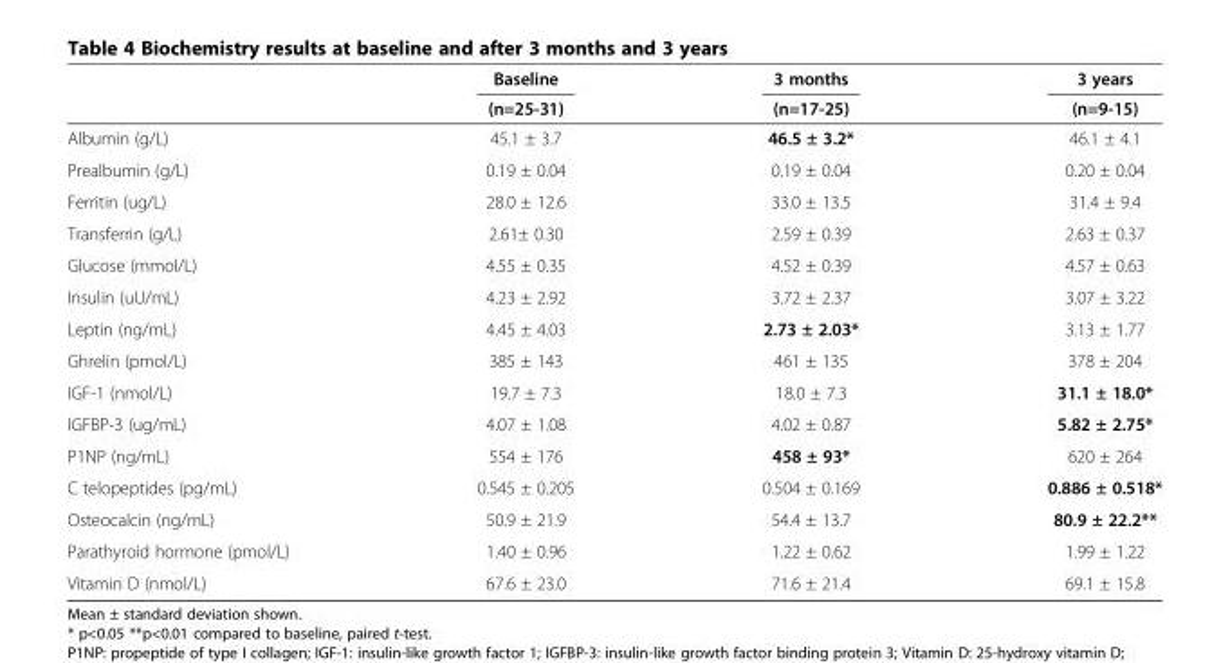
<table><thead><tr><td rowspan="2"></td><td rowspan="2">Baseline (n=25-31)</td><td rowspan="2">3 months (n=17-25)</td><td rowspan="2">3 years (n=9-15)</td></tr><tr></tr></thead><tbody><tr><td>Albumin (g/L)</td><td>45.1 ± 3.7</td><td>46.5 ± 3.2*</td><td>46.1 ± 4.1</td></tr><tr><td>Prealbumin (g/L)</td><td>0.19 ± 0.04</td><td>0.19 ± 0.04</td><td>0.20 ± 0.04</td></tr><tr><td>Ferritin (ug/L)</td><td>28.0 ± 12.6</td><td>33.0 ± 13.5</td><td>31.4 ± 9.4</td></tr><tr><td>Transferrin (g/L)</td><td>2.61± 0.30</td><td>2.59 ± 0.39</td><td>2.63 ± 0.37</td></tr><tr><td>Glucose (mmol/L)</td><td>4.55 ± 0.35</td><td>4.52 ± 0.39</td><td>4.57 ± 0.63</td></tr><tr><td>Insulin (uU/mL)</td><td>4.23 ± 2.92</td><td>3.72 ± 2.37</td><td>3.07 ± 3.22</td></tr><tr><td>Leptin (ng/mL)</td><td>4.45 ± 4.03</td><td>2.73 ± 2.03*</td><td>3.13 ± 1.77</td></tr><tr><td>Ghrelin (pmol/L)</td><td>385 ± 143</td><td>461 ± 135</td><td>378 ± 204</td></tr><tr><td>IGF-1 (nmol/L)</td><td>19.7 ± 7.3</td><td>18.0 ± 7.3</td><td>31.1 ± 18.0*</td></tr><tr><td>IGFBP-3 (ug/mL)</td><td>4.07 ± 1.08</td><td>4.02 ± 0.87</td><td>5.82 ± 2.75*</td></tr><tr><td>P1NP (ng/mL)</td><td>554 ± 176</td><td>458 ± 93*</td><td>620 ± 264</td></tr><tr><td>C telopeptides (pg/mL)</td><td>0.545 ± 0.205</td><td>0.504 ± 0.169</td><td>0.886 ± 0.518*</td></tr><tr><td>Osteocalcin (ng/mL)</td><td>50.9 ± 21.9</td><td>54.4 ± 13.7</td><td>80.9 ± 22.2**</td></tr><tr><td>Parathyroid hormone (pmol/L)</td><td>1.40 ± 0.96</td><td>1.22 ± 0.62</td><td>1.99 ± 1.22</td></tr><tr><td>Vitamin D (nmol/L)</td><td>67.6 ± 23.0</td><td>71.6 ± 21.4</td><td>69.1 ± 15.8</td></tr></tbody></table>